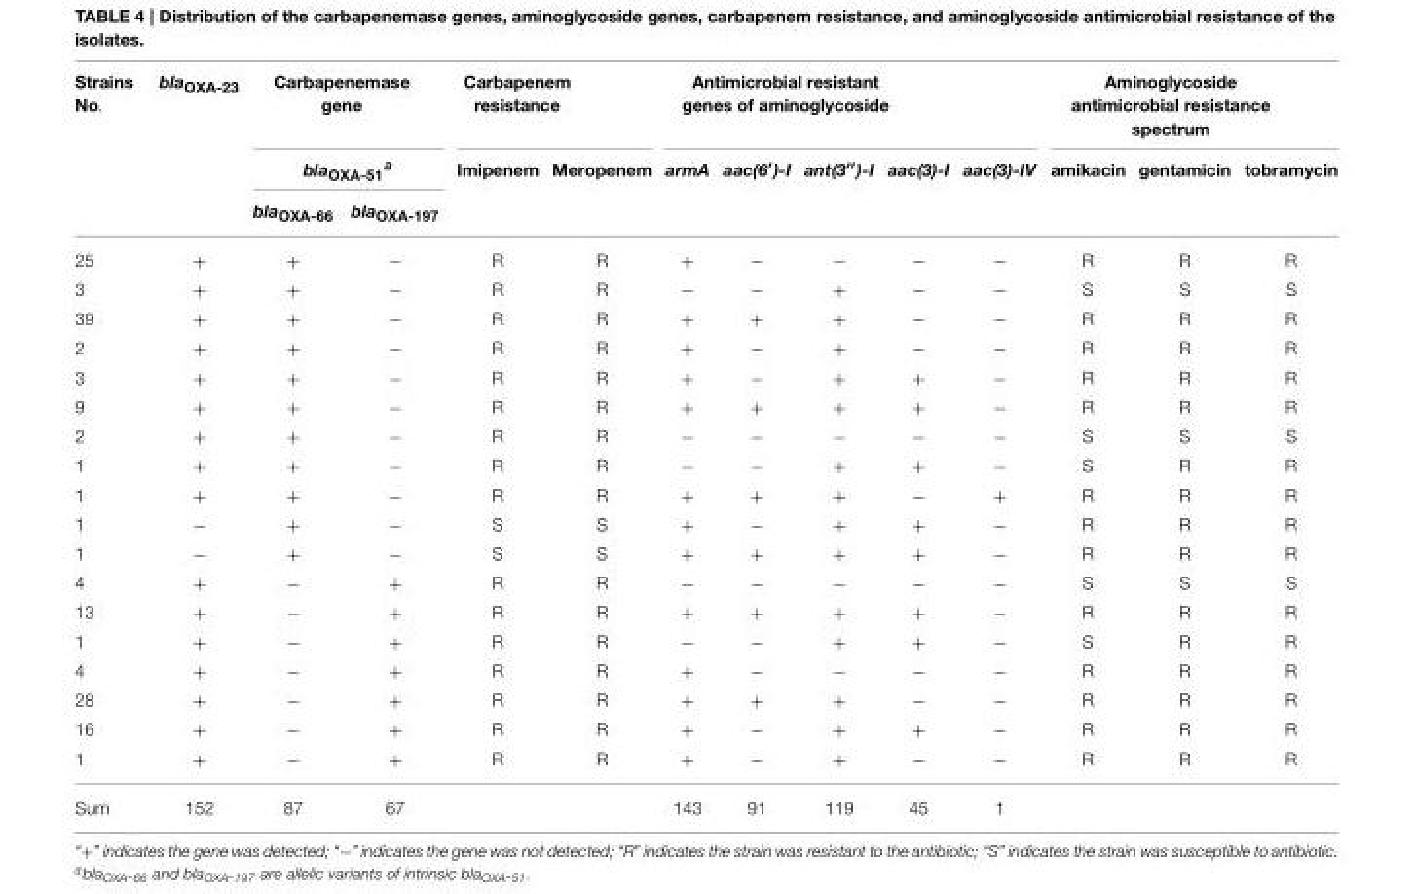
<table><thead><tr><td rowspan="3">Strains No.</td><td rowspan="3">bla<sub>OXA-23</sub></td><td rowspan="2" colspan="2">Carbapenemase gene bla<sub>OXA-51</sub>a</td><td colspan="2">Carbapenem resistance</td><td colspan="5">Antimicrobial resistant genes of aminoglycoside</td><td colspan="3">Aminoglycoside antimicrobial resistance spectrum</td></tr><tr><td rowspan="2">Imipenem</td><td rowspan="2">Meropenem</td><td rowspan="2">armA</td><td rowspan="2">aac(6′)-I</td><td rowspan="2">ant(3′′)-I</td><td rowspan="2">aac(3)-I</td><td rowspan="2">aac(3)-IV</td><td rowspan="2">amikacin</td><td rowspan="2">gentamicin</td><td rowspan="2">tobramycin</td></tr><tr><td>bla<sub>OXA-66</sub></td><td>bla<sub>OXA-197</sub></td></tr></thead><tbody><tr><td>25</td><td>+</td><td>+</td><td>−</td><td>R</td><td>R</td><td>+</td><td>−</td><td>−</td><td>−</td><td>−</td><td>R</td><td>R</td><td>R</td></tr><tr><td>3</td><td>+</td><td>+</td><td>−</td><td>R</td><td>R</td><td>−</td><td>−</td><td>+</td><td>−</td><td>−</td><td>S</td><td>S</td><td>S</td></tr><tr><td>39</td><td>+</td><td>+</td><td>−</td><td>R</td><td>R</td><td>+</td><td>+</td><td>+</td><td>−</td><td>−</td><td>R</td><td>R</td><td>R</td></tr><tr><td>2</td><td>+</td><td>+</td><td>−</td><td>R</td><td>R</td><td>+</td><td>−</td><td>+</td><td>−</td><td>−</td><td>R</td><td>R</td><td>R</td></tr><tr><td>3</td><td>+</td><td>+</td><td>−</td><td>R</td><td>R</td><td>+</td><td>−</td><td>+</td><td>+</td><td>−</td><td>R</td><td>R</td><td>R</td></tr><tr><td>9</td><td>+</td><td>+</td><td>−</td><td>R</td><td>R</td><td>+</td><td>+</td><td>+</td><td>+</td><td>−</td><td>R</td><td>R</td><td>R</td></tr><tr><td>2</td><td>+</td><td>+</td><td>−</td><td>R</td><td>R</td><td>−</td><td>−</td><td>−</td><td>−</td><td>−</td><td>S</td><td>S</td><td>S</td></tr><tr><td>1</td><td>+</td><td>+</td><td>−</td><td>R</td><td>R</td><td>−</td><td>−</td><td>+</td><td>+</td><td>−</td><td>S</td><td>R</td><td>R</td></tr><tr><td>1</td><td>+</td><td>+</td><td>−</td><td>R</td><td>R</td><td>+</td><td>+</td><td>+</td><td>−</td><td>+</td><td>R</td><td>R</td><td>R</td></tr><tr><td>1</td><td>−</td><td>+</td><td>−</td><td>S</td><td>S</td><td>+</td><td>−</td><td>+</td><td>+</td><td>−</td><td>R</td><td>R</td><td>R</td></tr><tr><td>1</td><td>−</td><td>+</td><td>−</td><td>S</td><td>S</td><td>+</td><td>+</td><td>+</td><td>+</td><td>−</td><td>R</td><td>R</td><td>R</td></tr><tr><td>4</td><td>+</td><td>−</td><td>+</td><td>R</td><td>R</td><td>−</td><td>−</td><td>−</td><td>−</td><td>−</td><td>S</td><td>S</td><td>S</td></tr><tr><td>13</td><td>+</td><td>−</td><td>+</td><td>R</td><td>R</td><td>+</td><td>+</td><td>+</td><td>+</td><td>−</td><td>R</td><td>R</td><td>R</td></tr><tr><td>1</td><td>+</td><td>−</td><td>+</td><td>R</td><td>R</td><td>−</td><td>−</td><td>+</td><td>+</td><td>−</td><td>S</td><td>R</td><td>R</td></tr><tr><td>4</td><td>+</td><td>−</td><td>+</td><td>R</td><td>R</td><td>+</td><td>−</td><td>−</td><td>−</td><td>−</td><td>R</td><td>R</td><td>R</td></tr><tr><td>28</td><td>+</td><td>−</td><td>+</td><td>R</td><td>R</td><td>+</td><td>+</td><td>+</td><td>−</td><td>−</td><td>R</td><td>R</td><td>R</td></tr><tr><td>16</td><td>+</td><td>−</td><td>+</td><td>R</td><td>R</td><td>+</td><td>−</td><td>+</td><td>+</td><td>−</td><td>R</td><td>R</td><td>R</td></tr><tr><td>1</td><td>+</td><td>−</td><td>+</td><td>R</td><td>R</td><td>+</td><td>−</td><td>+</td><td>−</td><td>−</td><td>R</td><td>R</td><td>R</td></tr><tr><td>Sum</td><td>152</td><td>87</td><td>67</td><td></td><td></td><td>143</td><td>91</td><td>119</td><td>45</td><td>1</td><td></td><td></td><td></td></tr></tbody></table>